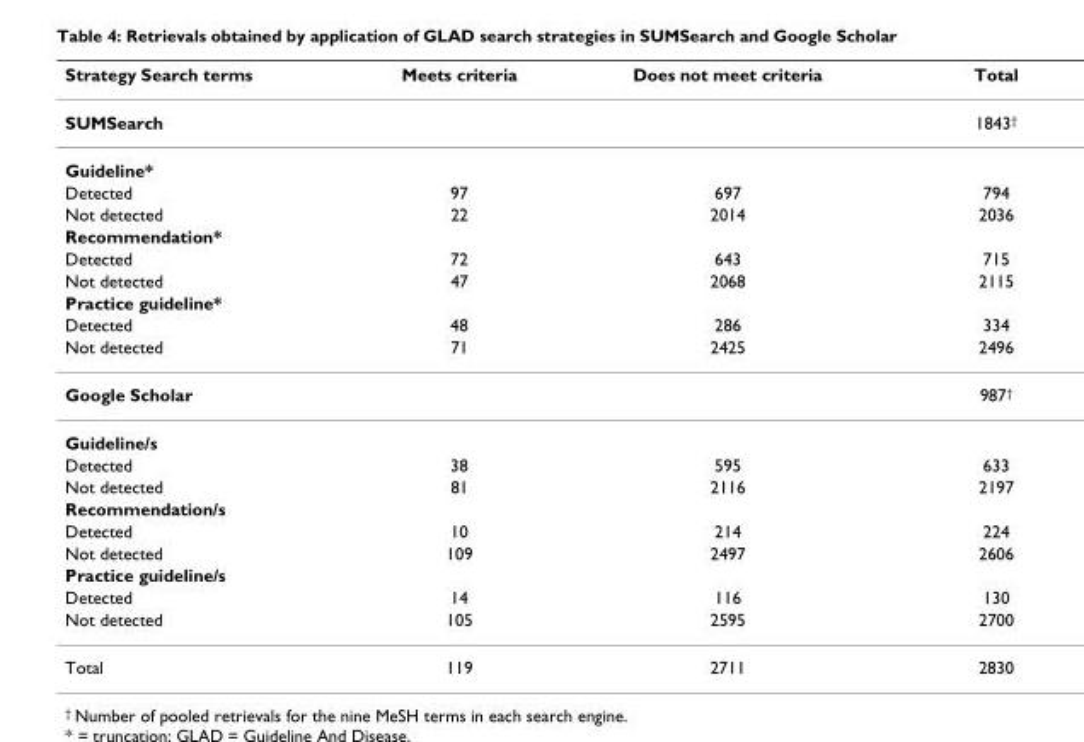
<table><thead><tr><td>Strategy Search terms</td><td>Meets criteria</td><td>Does not meet criteria</td><td>Total</td></tr></thead><tbody><tr><td>SUMSearch</td><td></td><td></td><td>1843<sup>†</sup></td></tr><tr><td colspan="4">Guideline*</td></tr><tr><td>Detected</td><td>97</td><td>697</td><td>794</td></tr><tr><td>Not detected</td><td>22</td><td>2014</td><td>2036</td></tr><tr><td colspan="4">Recommendation*</td></tr><tr><td>Detected</td><td>72</td><td>643</td><td>715</td></tr><tr><td>Not detected</td><td>47</td><td>2068</td><td>2115</td></tr><tr><td colspan="4">Practice guideline*</td></tr><tr><td>Detected</td><td>48</td><td>286</td><td>334</td></tr><tr><td>Not detected</td><td>71</td><td>2425</td><td>2496</td></tr><tr><td>Google Scholar</td><td></td><td></td><td>987<sup>†</sup></td></tr><tr><td colspan="4">Guideline/s</td></tr><tr><td>Detected</td><td>38</td><td>595</td><td>633</td></tr><tr><td>Not detected</td><td>81</td><td>2116</td><td>2197</td></tr><tr><td colspan="4">Recommendation/s</td></tr><tr><td>Detected</td><td>10</td><td>214</td><td>224</td></tr><tr><td>Not detected</td><td>109</td><td>2497</td><td>2606</td></tr><tr><td colspan="4">Practice guideline/s</td></tr><tr><td>Detected</td><td>14</td><td>116</td><td>130</td></tr><tr><td>Not detected</td><td>105</td><td>2595</td><td>2700</td></tr><tr><td>Total</td><td>119</td><td>2711</td><td>2830</td></tr></tbody></table>